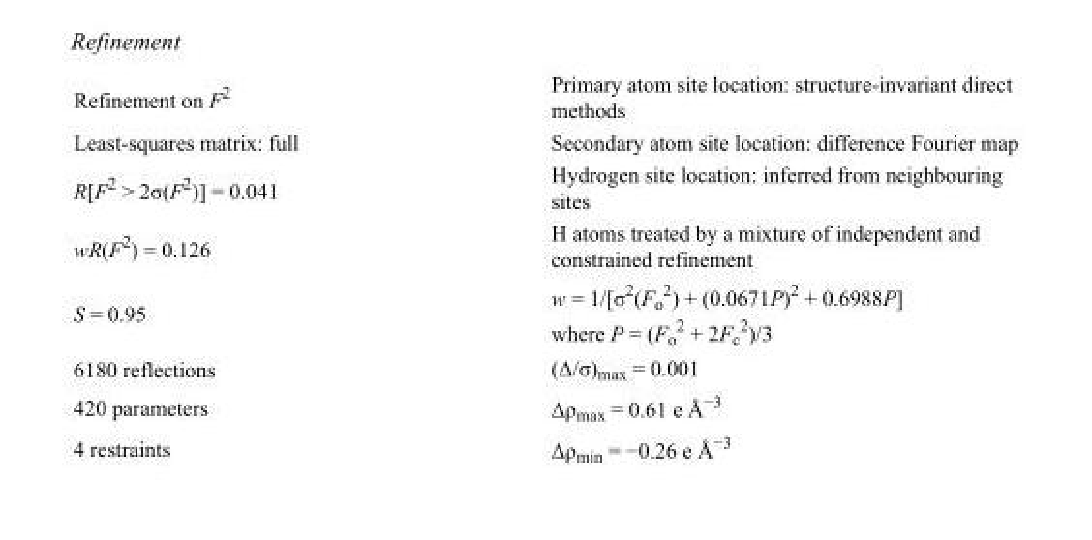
<table><tbody><tr><td>Refinement on F<sup>2</sup></td><td>Primary atom site location: structure-invariant direct methods</td></tr><tr><td>Least-squares matrix: full</td><td>Secondary atom site location: difference Fourier map</td></tr><tr><td>R[F<sup>2</sup> &gt; 2σ(F<sup>2</sup>)] = 0.041</td><td>Hydrogen site location: inferred from neighbouring sites</td></tr><tr><td>wR(F<sup>2</sup>) = 0.126</td><td>H atoms treated by a mixture of independent and constrained refinement</td></tr><tr><td>S = 0.95</td><td>w = 1/[σ<sup>2</sup>(F<sub>o</sub> <sup>2</sup>) + (0.0671P)<sup>2</sup> + 0.6988P] where P = (F<sub>o</sub> <sup>2</sup> + 2F<sub>c</sub> <sup>2</sup>)/3</td></tr><tr><td>6180 reflections</td><td>(Δ/σ)<sub>max</sub> = 0.001</td></tr><tr><td>420 parameters</td><td>Δρ<sub>max</sub> = 0.61 e Å<sup>−3</sup></td></tr><tr><td>4 restraints</td><td>Δρ<sub>min</sub> = −0.26 e Å<sup>−3</sup></td></tr></tbody></table>